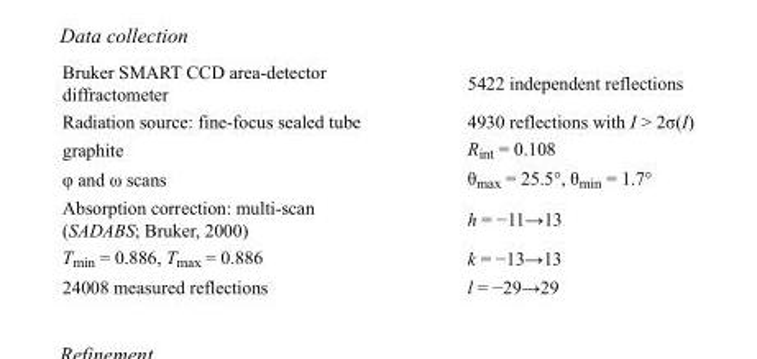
<table><tbody><tr><td>Bruker SMART CCD area-detector diffractometer</td><td>5422 independent reflections</td></tr><tr><td>Radiation source: fine-focus sealed tube</td><td>4930 reflections with I &gt; 2σ(I)</td></tr><tr><td>graphite</td><td>R<sub>int</sub> = 0.108</td></tr><tr><td>φ and ω scans</td><td>θ<sub>max</sub> = 25.5°, θ<sub>min</sub> = 1.7°</td></tr><tr><td>Absorption correction: multi-scan (SADABS; Bruker, 2000)</td><td>h = −11→13</td></tr><tr><td>T<sub>min</sub> = 0.886, T<sub>max</sub> = 0.886</td><td>k = −13→13</td></tr><tr><td>24008 measured reflections</td><td>l = −29→29</td></tr></tbody></table>